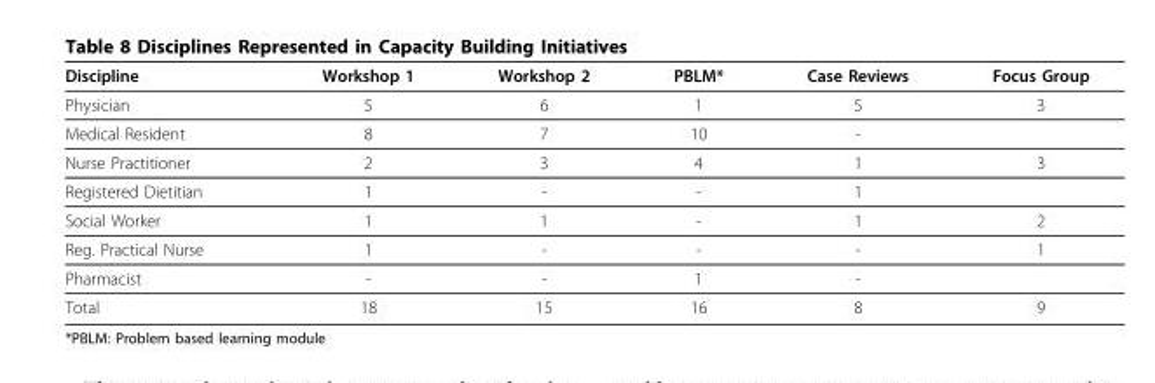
<table><thead><tr><td>Discipline</td><td>Workshop 1</td><td>Workshop 2</td><td>PBLM*</td><td>Case Reviews</td><td>Focus Group</td></tr></thead><tbody><tr><td>Physician</td><td>5</td><td>6</td><td>1</td><td>5</td><td>3</td></tr><tr><td>Medical Resident</td><td>8</td><td>7</td><td>10</td><td>-</td><td></td></tr><tr><td>Nurse Practitioner</td><td>2</td><td>3</td><td>4</td><td>1</td><td>3</td></tr><tr><td>Registered Dietitian</td><td>1</td><td>-</td><td>-</td><td>1</td><td></td></tr><tr><td>Social Worker</td><td>1</td><td>1</td><td>-</td><td>1</td><td>2</td></tr><tr><td>Reg. Practical Nurse</td><td>1</td><td>-</td><td>-</td><td>-</td><td>1</td></tr><tr><td>Pharmacist</td><td>-</td><td>-</td><td>1</td><td>-</td><td></td></tr><tr><td>Total</td><td>18</td><td>15</td><td>16</td><td>8</td><td>9</td></tr></tbody></table>